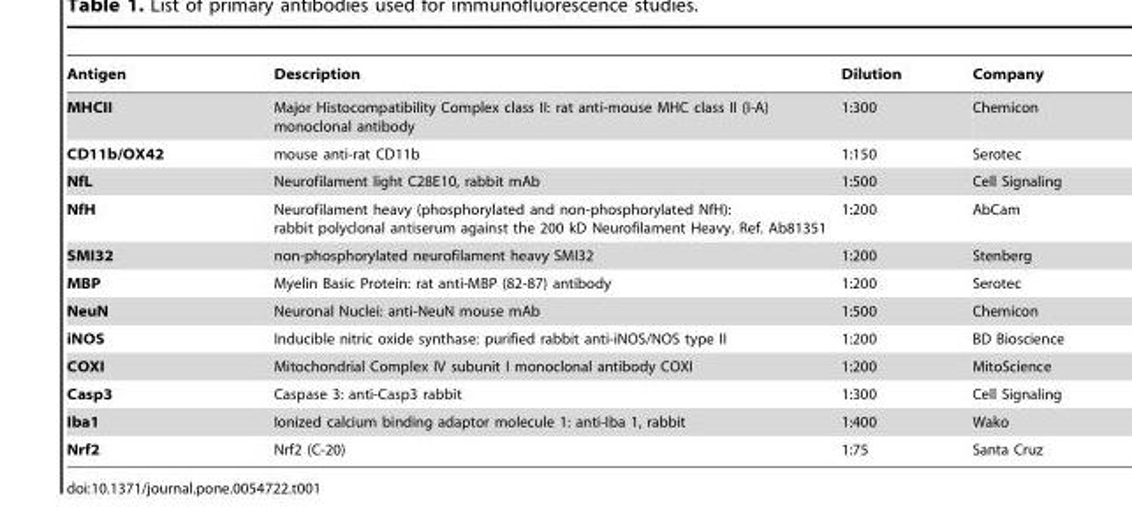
<table><thead><tr><td>Antigen</td><td>Description</td><td>Dilution</td><td>Company</td></tr></thead><tbody><tr><td>MHCII</td><td>Major Histocompatibility Complex class II: rat anti-mouse MHC class II (I-A) monoclonal antibody</td><td>1:300</td><td>Chemicon</td></tr><tr><td>CD11b/OX42</td><td>mouse anti-rat CD11b</td><td>1:150</td><td>Serotec</td></tr><tr><td>NfL</td><td>Neurofilament light C28E10, rabbit mAb</td><td>1:500</td><td>Cell Signaling</td></tr><tr><td>NfH</td><td>Neurofilament heavy (phosphorylated and non-phosphorylated NfH): rabbit polyclonal antiserum against the 200 kD Neurofilament Heavy. Ref. Ab81351</td><td>1:200</td><td>AbCam</td></tr><tr><td>SMI32</td><td>non-phosphorylated neurofilament heavy SMI32</td><td>1:200</td><td>Stenberg</td></tr><tr><td>MBP</td><td>Myelin Basic Protein: rat anti-MBP (82-87) antibody</td><td>1:200</td><td>Serotec</td></tr><tr><td>NeuN</td><td>Neuronal Nuclei: anti-NeuN mouse mAb</td><td>1:500</td><td>Chemicon</td></tr><tr><td>iNOS</td><td>Inducible nitric oxide synthase: purified rabbit anti-iNOS/NOS type II</td><td>1:200</td><td>BD Bioscience</td></tr><tr><td>COXI</td><td>Mitochondrial Complex IV subunit I monoclonal antibody COXI</td><td>1:200</td><td>MitoScience</td></tr><tr><td>Casp3</td><td>Caspase 3: anti-Casp3 rabbit</td><td>1:300</td><td>Cell Signaling</td></tr><tr><td>Iba1</td><td>Ionized calcium binding adaptor molecule 1: anti-Iba 1, rabbit</td><td>1:400</td><td>Wako</td></tr><tr><td>Nrf2</td><td>Nrf2 (C-20)</td><td>1:75</td><td>Santa Cruz</td></tr></tbody></table>